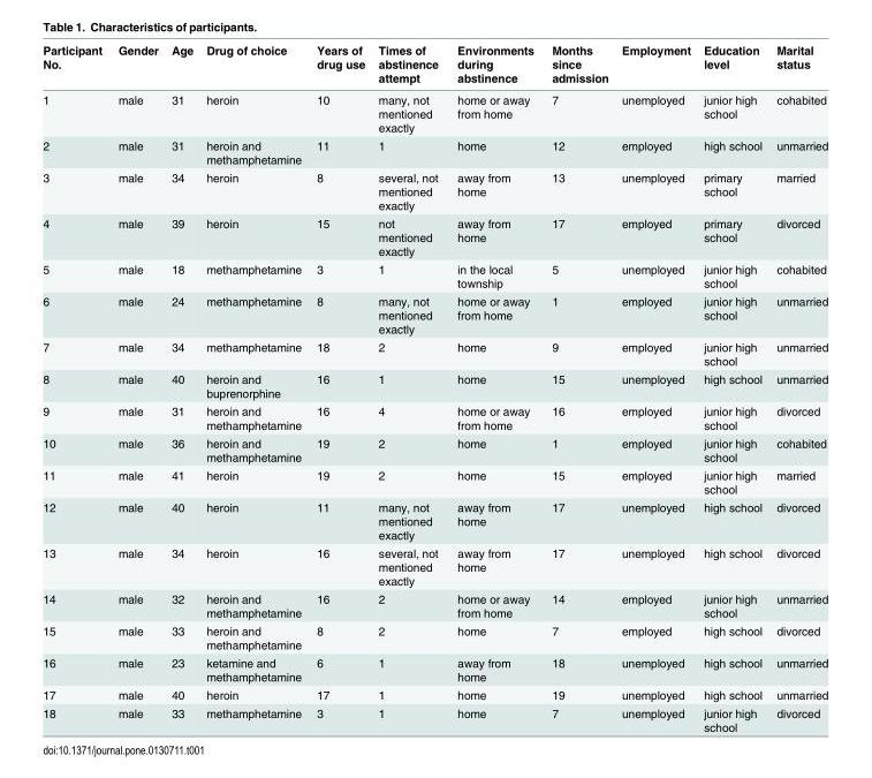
<table><thead><tr><td>Participant No.</td><td>Gender</td><td>Age</td><td>Drug of choice</td><td>Years of drug use</td><td>Times of abstinence attempt</td><td>Environments during abstinence</td><td>Months since admission</td><td>Employment</td><td>Education level</td><td>Marital status</td></tr></thead><tbody><tr><td>1</td><td>male</td><td>31</td><td>heroin</td><td>10</td><td>many, not mentioned exactly</td><td>home or away from home</td><td>7</td><td>unemployed</td><td>junior high school</td><td>cohabited</td></tr><tr><td>2</td><td>male</td><td>31</td><td>heroin and methamphetamine</td><td>11</td><td>1</td><td>home</td><td>12</td><td>employed</td><td>high school</td><td>unmarried</td></tr><tr><td>3</td><td>male</td><td>34</td><td>heroin</td><td>8</td><td>several, not mentioned exactly</td><td>away from home</td><td>13</td><td>unemployed</td><td>primary school</td><td>married</td></tr><tr><td>4</td><td>male</td><td>39</td><td>heroin</td><td>15</td><td>not mentioned exactly</td><td>away from home</td><td>17</td><td>employed</td><td>primary school</td><td>divorced</td></tr><tr><td>5</td><td>male</td><td>18</td><td>methamphetamine</td><td>3</td><td>1</td><td>in the local township</td><td>5</td><td>unemployed</td><td>junior high school</td><td>cohabited</td></tr><tr><td>6</td><td>male</td><td>24</td><td>methamphetamine</td><td>8</td><td>many, not mentioned exactly</td><td>home or away from home</td><td>1</td><td>employed</td><td>junior high school</td><td>unmarried</td></tr><tr><td>7</td><td>male</td><td>34</td><td>methamphetamine</td><td>18</td><td>2</td><td>home</td><td>9</td><td>employed</td><td>junior high school</td><td>unmarried</td></tr><tr><td>8</td><td>male</td><td>40</td><td>heroin and buprenorphine</td><td>16</td><td>1</td><td>home</td><td>15</td><td>unemployed</td><td>high school</td><td>unmarried</td></tr><tr><td>9</td><td>male</td><td>31</td><td>heroin and methamphetamine</td><td>16</td><td>4</td><td>home or away from home</td><td>16</td><td>employed</td><td>junior high school</td><td>divorced</td></tr><tr><td>10</td><td>male</td><td>36</td><td>heroin and methamphetamine</td><td>19</td><td>2</td><td>home</td><td>1</td><td>employed</td><td>junior high school</td><td>cohabited</td></tr><tr><td>11</td><td>male</td><td>41</td><td>heroin</td><td>19</td><td>2</td><td>home</td><td>15</td><td>employed</td><td>junior high school</td><td>married</td></tr><tr><td>12</td><td>male</td><td>40</td><td>heroin</td><td>11</td><td>many, not mentioned exactly</td><td>away from home</td><td>17</td><td>unemployed</td><td>high school</td><td>divorced</td></tr><tr><td>13</td><td>male</td><td>34</td><td>heroin</td><td>16</td><td>several, not mentioned exactly</td><td>away from home</td><td>17</td><td>unemployed</td><td>high school</td><td>divorced</td></tr><tr><td>14</td><td>male</td><td>32</td><td>heroin and methamphetamine</td><td>16</td><td>2</td><td>home or away from home</td><td>14</td><td>employed</td><td>junior high school</td><td>unmarried</td></tr><tr><td>15</td><td>male</td><td>33</td><td>heroin and methamphetamine</td><td>8</td><td>2</td><td>home</td><td>7</td><td>employed</td><td>high school</td><td>divorced</td></tr><tr><td>16</td><td>male</td><td>23</td><td>ketamine and methamphetamine</td><td>6</td><td>1</td><td>away from home</td><td>18</td><td>unemployed</td><td>high school</td><td>unmarried</td></tr><tr><td>17</td><td>male</td><td>40</td><td>heroin</td><td>17</td><td>1</td><td>home</td><td>19</td><td>unemployed</td><td>high school</td><td>unmarried</td></tr><tr><td>18</td><td>male</td><td>33</td><td>methamphetamine</td><td>3</td><td>1</td><td>home</td><td>7</td><td>unemployed</td><td>junior high school</td><td>divorced</td></tr></tbody></table>